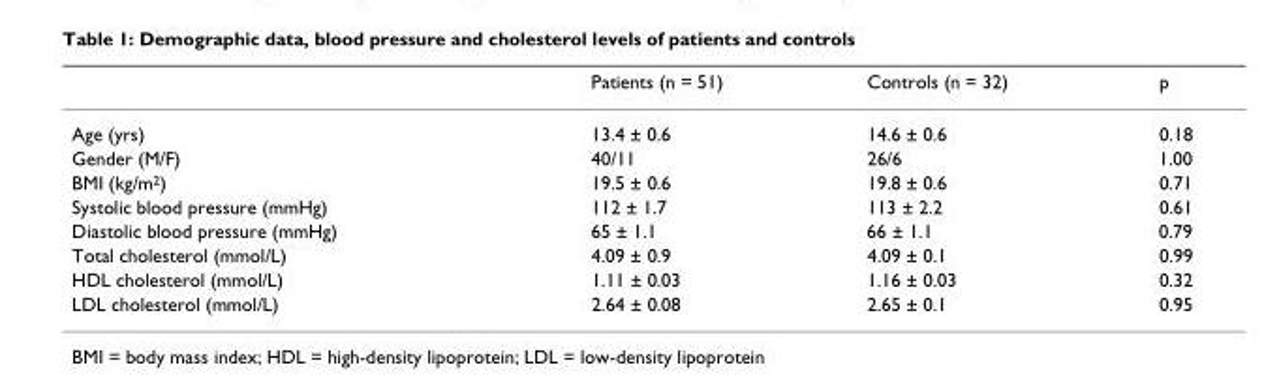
<table><thead><tr><td></td><td>Patients (n = 51)</td><td>Controls (n = 32)</td><td>p</td></tr></thead><tbody><tr><td>Age (yrs)</td><td>13.4 ± 0.6</td><td>14.6 ± 0.6</td><td>0.18</td></tr><tr><td>Gender (M/F)</td><td>40/11</td><td>26/6</td><td>1.00</td></tr><tr><td>BMI (kg/m<sup>2</sup>)</td><td>19.5 ± 0.6</td><td>19.8 ± 0.6</td><td>0.71</td></tr><tr><td>Systolic blood pressure (mmHg)</td><td>112 ± 1.7</td><td>113 ± 2.2</td><td>0.61</td></tr><tr><td>Diastolic blood pressure (mmHg)</td><td>65 ± 1.1</td><td>66 ± 1.1</td><td>0.79</td></tr><tr><td>Total cholesterol (mmol/L)</td><td>4.09 ± 0.9</td><td>4.09 ± 0.1</td><td>0.99</td></tr><tr><td>HDL cholesterol (mmol/L)</td><td>1.11 ± 0.03</td><td>1.16 ± 0.03</td><td>0.32</td></tr><tr><td>LDL cholesterol (mmol/L)</td><td>2.64 ± 0.08</td><td>2.65 ± 0.1</td><td>0.95</td></tr></tbody></table>